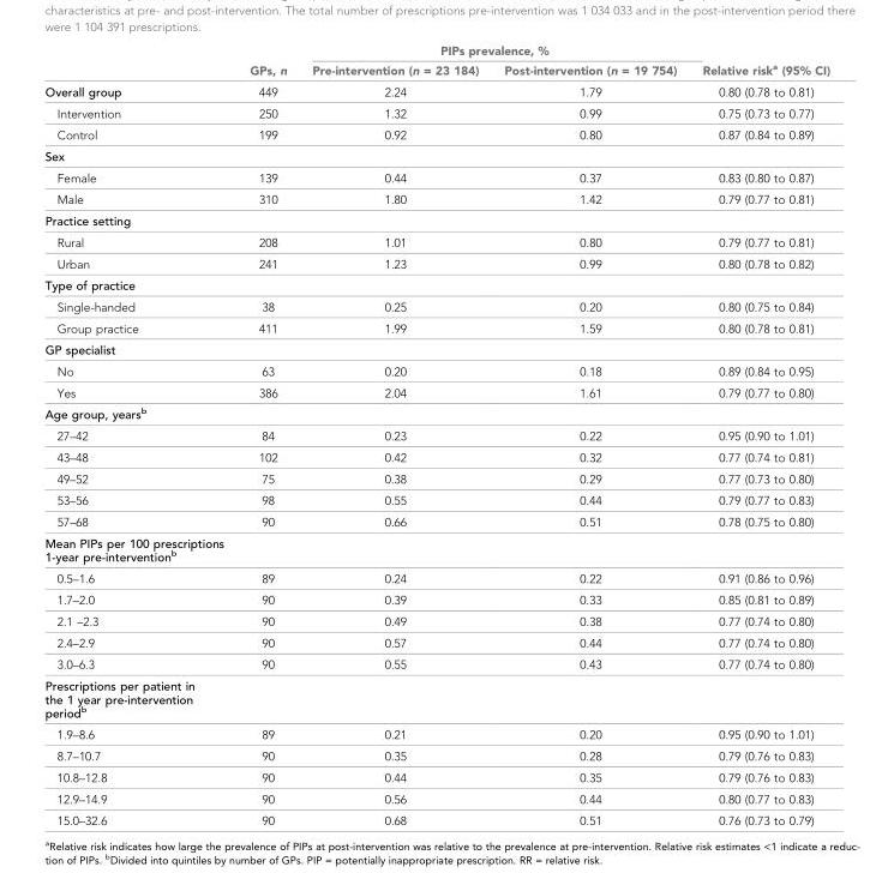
<table><thead><tr><td rowspan="2"></td><td rowspan="2">GPs, n</td><td colspan="2">PIPs prevalence, %</td><td rowspan="2">Relative risk<sup>a</sup> (95% CI)</td></tr><tr><td>Pre-intervention (n = 23 184)</td><td>Post-intervention (n = 19 754)</td></tr></thead><tbody><tr><td>Overall group</td><td>449</td><td>2.24</td><td>1.79</td><td>0.80 (0.78 to 0.81)</td></tr><tr><td>Intervention</td><td>250</td><td>1.32</td><td>0.99</td><td>0.75 (0.73 to 0.77)</td></tr><tr><td>Control</td><td>199</td><td>0.92</td><td>0.80</td><td>0.87 (0.84 to 0.89)</td></tr><tr><td colspan="5">Sex</td></tr><tr><td>Female</td><td>139</td><td>0.44</td><td>0.37</td><td>0.83 (0.80 to 0.87)</td></tr><tr><td>Male</td><td>310</td><td>1.80</td><td>1.42</td><td>0.79 (0.77 to 0.81)</td></tr><tr><td colspan="5">Practice setting</td></tr><tr><td>Rural</td><td>208</td><td>1.01</td><td>0.80</td><td>0.79 (0.77 to 0.81)</td></tr><tr><td>Urban</td><td>241</td><td>1.23</td><td>0.99</td><td>0.80 (0.78 to 0.82)</td></tr><tr><td colspan="5">Type of practice</td></tr><tr><td>Single-handed</td><td>38</td><td>0.25</td><td>0.20</td><td>0.80 (0.75 to 0.84)</td></tr><tr><td>Group practice</td><td>411</td><td>1.99</td><td>1.59</td><td>0.80 (0.78 to 0.81)</td></tr><tr><td colspan="5">GP specialist</td></tr><tr><td>No</td><td>63</td><td>0.20</td><td>0.18</td><td>0.89 (0.84 to 0.95)</td></tr><tr><td>Yes</td><td>386</td><td>2.04</td><td>1.61</td><td>0.79 (0.77 to 0.80)</td></tr><tr><td colspan="5">Age group, years<sup>b</sup></td></tr><tr><td>27–42</td><td>84</td><td>0.23</td><td>0.22</td><td>0.95 (0.90 to 1.01)</td></tr><tr><td>43–48</td><td>102</td><td>0.42</td><td>0.32</td><td>0.77 (0.74 to 0.81)</td></tr><tr><td>49–52</td><td>75</td><td>0.38</td><td>0.29</td><td>0.77 (0.73 to 0.80)</td></tr><tr><td>53–56</td><td>98</td><td>0.55</td><td>0.44</td><td>0.79 (0.77 to 0.83)</td></tr><tr><td>57–68</td><td>90</td><td>0.66</td><td>0.51</td><td>0.78 (0.75 to 0.80)</td></tr><tr><td colspan="5">Mean PIPs per 100 prescriptions 1-year pre-intervention<sup>b</sup></td></tr><tr><td>0.5–1.6</td><td>89</td><td>0.24</td><td>0.22</td><td>0.91 (0.86 to 0.96)</td></tr><tr><td>1.7–2.0</td><td>90</td><td>0.39</td><td>0.33</td><td>0.85 (0.81 to 0.89)</td></tr><tr><td>2.1 –2.3</td><td>90</td><td>0.49</td><td>0.38</td><td>0.77 (0.74 to 0.80)</td></tr><tr><td>2.4–2.9</td><td>90</td><td>0.57</td><td>0.44</td><td>0.77 (0.74 to 0.80)</td></tr><tr><td>3.0–6.3</td><td>90</td><td>0.55</td><td>0.43</td><td>0.77 (0.74 to 0.80)</td></tr><tr><td colspan="5">Prescriptions per patient in the 1 year pre-intervention period<sup>b</sup></td></tr><tr><td>1.9–8.6</td><td>89</td><td>0.21</td><td>0.20</td><td>0.95 (0.90 to 1.01)</td></tr><tr><td>8.7–10.7</td><td>90</td><td>0.35</td><td>0.28</td><td>0.79 (0.76 to 0.83)</td></tr><tr><td>10.8–12.8</td><td>90</td><td>0.44</td><td>0.35</td><td>0.79 (0.76 to 0.83)</td></tr><tr><td>12.9–14.9</td><td>90</td><td>0.56</td><td>0.44</td><td>0.80 (0.77 to 0.83)</td></tr><tr><td>15.0–32.6</td><td>90</td><td>0.68</td><td>0.51</td><td>0.76 (0.73 to 0.79)</td></tr></tbody></table>